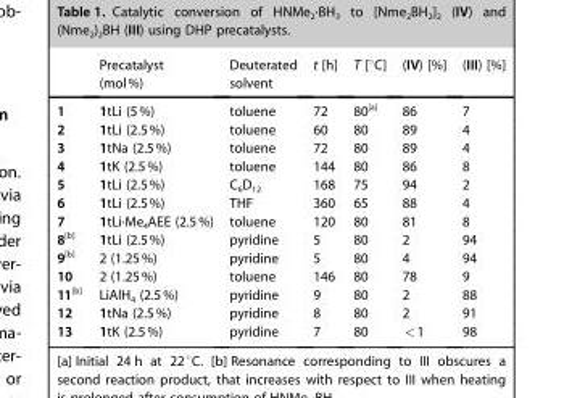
<table><thead><tr><td></td><td>Precatalyst (mol%)</td><td>Deuterated solvent</td><td>t [h]</td><td>T [°C]</td><td>(IV) [%]</td><td>(III) [%]</td></tr></thead><tbody><tr><td>1</td><td>1tLi (5%)</td><td>toluene</td><td>72</td><td>80<sup>[a]</sup></td><td>86</td><td>7</td></tr><tr><td>2</td><td>1tLi (2.5%)</td><td>toluene</td><td>60</td><td>80</td><td>89</td><td>4</td></tr><tr><td>3</td><td>1tNa (2.5%)</td><td>toluene</td><td>72</td><td>80</td><td>89</td><td>4</td></tr><tr><td>4</td><td>1tK (2.5%)</td><td>toluene</td><td>144</td><td>80</td><td>86</td><td>8</td></tr><tr><td>5</td><td>1tLi (2.5%)</td><td>C<sub>6</sub>D<sub>12</sub></td><td>168</td><td>75</td><td>94</td><td>2</td></tr><tr><td>6</td><td>1tLi (2.5%)</td><td>THF</td><td>360</td><td>65</td><td>88</td><td>4</td></tr><tr><td>7</td><td>1tLi·Me4AEE (2.5%)</td><td>toluene</td><td>120</td><td>80</td><td>81</td><td>8</td></tr><tr><td>8<sup>[b]</sup></td><td>1tLi (2.5%)</td><td>pyridine</td><td>5</td><td>80</td><td>2</td><td>94</td></tr><tr><td>9<sup>[b]</sup></td><td>2 (1.25%)</td><td>pyridine</td><td>5</td><td>80</td><td>4</td><td>94</td></tr><tr><td>10</td><td>2 (1.25%)</td><td>toluene</td><td>146</td><td>80</td><td>78</td><td>9</td></tr><tr><td>11<sup>[b]</sup></td><td>LiAlH<sub>4</sub> (2.5%)</td><td>pyridine</td><td>9</td><td>80</td><td>2</td><td>88</td></tr><tr><td>12</td><td>1tNa (2.5%)</td><td>pyridine</td><td>8</td><td>80</td><td>2</td><td>91</td></tr><tr><td>13</td><td>1tK (2.5%)</td><td>pyridine</td><td>7</td><td>80</td><td>&lt;1</td><td>98</td></tr></tbody></table>